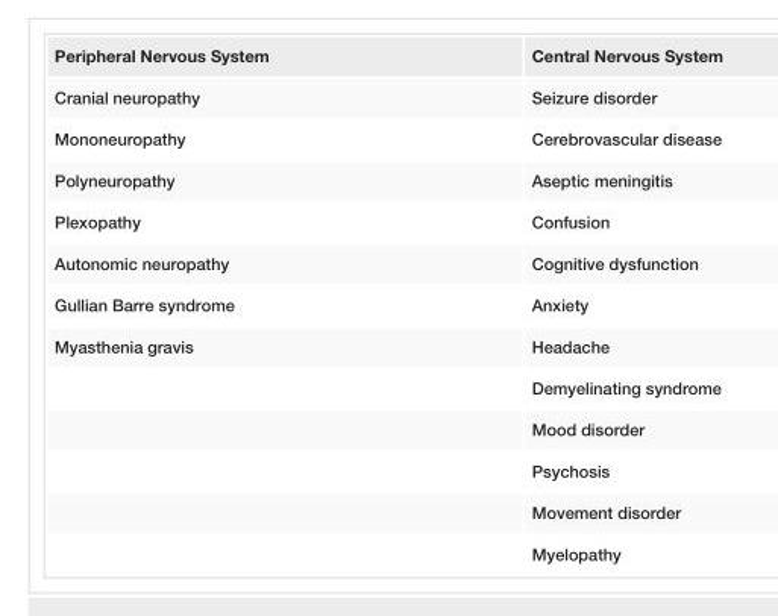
<table><tbody><tr><td>Peripheral Nervous System</td><td>Central Nervous System</td></tr><tr><td>Cranial neuropathy</td><td>Seizure disorder</td></tr><tr><td>Mononeuropathy</td><td>Cerebrovascular disease</td></tr><tr><td>Polyneuropathy</td><td>Aseptic meningitis</td></tr><tr><td>Plexopathy</td><td>Confusion</td></tr><tr><td>Autonomic neuropathy</td><td>Cognitive dysfunction</td></tr><tr><td>Gullian Barre syndrome</td><td>Anxiety</td></tr><tr><td rowspan="6">Myasthenia gravis</td><td>Headache</td></tr><tr><td>Demyelinating syndrome</td></tr><tr><td>Mood disorder</td></tr><tr><td>Psychosis</td></tr><tr><td>Movement disorder</td></tr><tr><td>Myelopathy</td></tr></tbody></table>